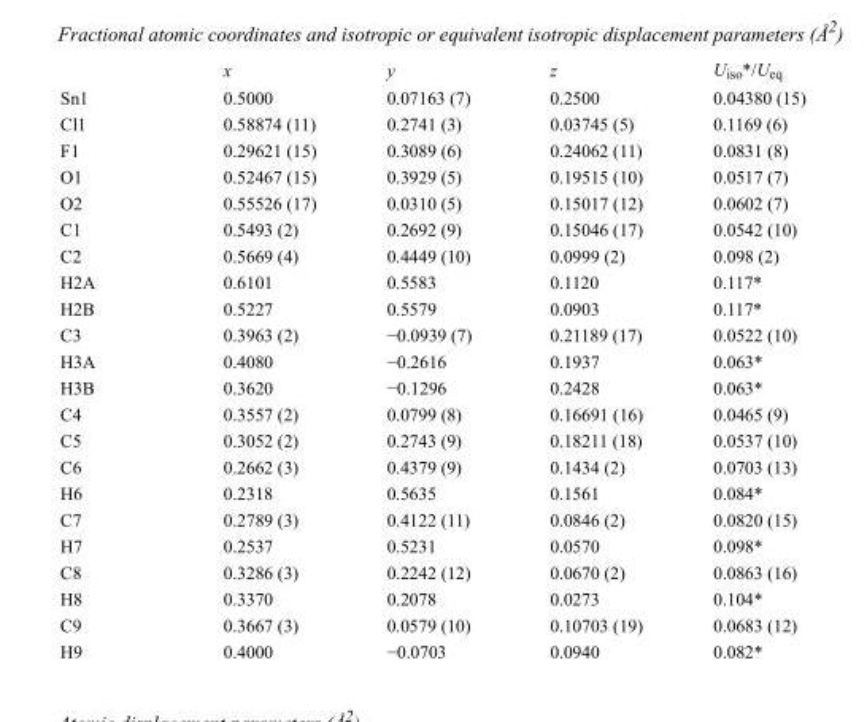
<table><thead><tr><td></td><td>x</td><td>y</td><td>z</td><td>U<sub>iso</sub>*/U<sub>eq</sub></td></tr></thead><tbody><tr><td>Sn1</td><td>0.5000</td><td>0.07163 (7)</td><td>0.2500</td><td>0.04380 (15)</td></tr><tr><td>Cl1</td><td>0.58874 (11)</td><td>0.2741 (3)</td><td>0.03745 (5)</td><td>0.1169 (6)</td></tr><tr><td>F1</td><td>0.29621 (15)</td><td>0.3089 (6)</td><td>0.24062 (11)</td><td>0.0831 (8)</td></tr><tr><td>O1</td><td>0.52467 (15)</td><td>0.3929 (5)</td><td>0.19515 (10)</td><td>0.0517 (7)</td></tr><tr><td>O2</td><td>0.55526 (17)</td><td>0.0310 (5)</td><td>0.15017 (12)</td><td>0.0602 (7)</td></tr><tr><td>C1</td><td>0.5493 (2)</td><td>0.2692 (9)</td><td>0.15046 (17)</td><td>0.0542 (10)</td></tr><tr><td>C2</td><td>0.5669 (4)</td><td>0.4449 (10)</td><td>0.0999 (2)</td><td>0.098 (2)</td></tr><tr><td>H2A</td><td>0.6101</td><td>0.5583</td><td>0.1120</td><td>0.117*</td></tr><tr><td>H2B</td><td>0.5227</td><td>0.5579</td><td>0.0903</td><td>0.117*</td></tr><tr><td>C3</td><td>0.3963 (2)</td><td>−0.0939 (7)</td><td>0.21189 (17)</td><td>0.0522 (10)</td></tr><tr><td>H3A</td><td>0.4080</td><td>−0.2616</td><td>0.1937</td><td>0.063*</td></tr><tr><td>H3B</td><td>0.3620</td><td>−0.1296</td><td>0.2428</td><td>0.063*</td></tr><tr><td>C4</td><td>0.3557 (2)</td><td>0.0799 (8)</td><td>0.16691 (16)</td><td>0.0465 (9)</td></tr><tr><td>C5</td><td>0.3052 (2)</td><td>0.2743 (9)</td><td>0.18211 (18)</td><td>0.0537 (10)</td></tr><tr><td>C6</td><td>0.2662 (3)</td><td>0.4379 (9)</td><td>0.1434 (2)</td><td>0.0703 (13)</td></tr><tr><td>H6</td><td>0.2318</td><td>0.5635</td><td>0.1561</td><td>0.084*</td></tr><tr><td>C7</td><td>0.2789 (3)</td><td>0.4122 (11)</td><td>0.0846 (2)</td><td>0.0820 (15)</td></tr><tr><td>H7</td><td>0.2537</td><td>0.5231</td><td>0.0570</td><td>0.098*</td></tr><tr><td>C8</td><td>0.3286 (3)</td><td>0.2242 (12)</td><td>0.0670 (2)</td><td>0.0863 (16)</td></tr><tr><td>H8</td><td>0.3370</td><td>0.2078</td><td>0.0273</td><td>0.104*</td></tr><tr><td>C9</td><td>0.3667 (3)</td><td>0.0579 (10)</td><td>0.10703 (19)</td><td>0.0683 (12)</td></tr><tr><td>H9</td><td>0.4000</td><td>−0.0703</td><td>0.0940</td><td>0.082*</td></tr></tbody></table>